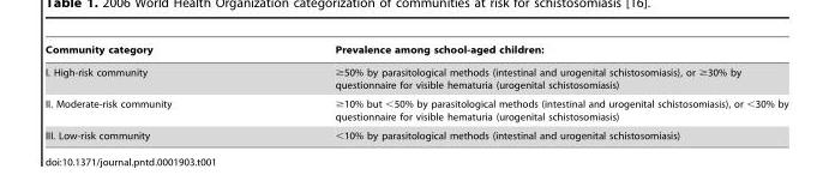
<table><thead><tr><td>Community category</td><td>Prevalence among school-aged children:</td></tr></thead><tbody><tr><td>I. High-risk community</td><td>≥50% by parasitological methods (intestinal and urogenital schistosomiasis), or ≥30% by questionnaire for visible hematuria (urogenital schistosomiasis)</td></tr><tr><td>II. Moderate-risk community</td><td>≥10% but &lt;50% by parasitological methods (intestinal and urogenital schistosomiasis), or &lt;30% by questionnaire for visible hematuria (urogenital schistosomiasis)</td></tr><tr><td>III. Low-risk community</td><td>&lt;10% by parasitological methods (intestinal and urogenital schistosomiasis)</td></tr></tbody></table>